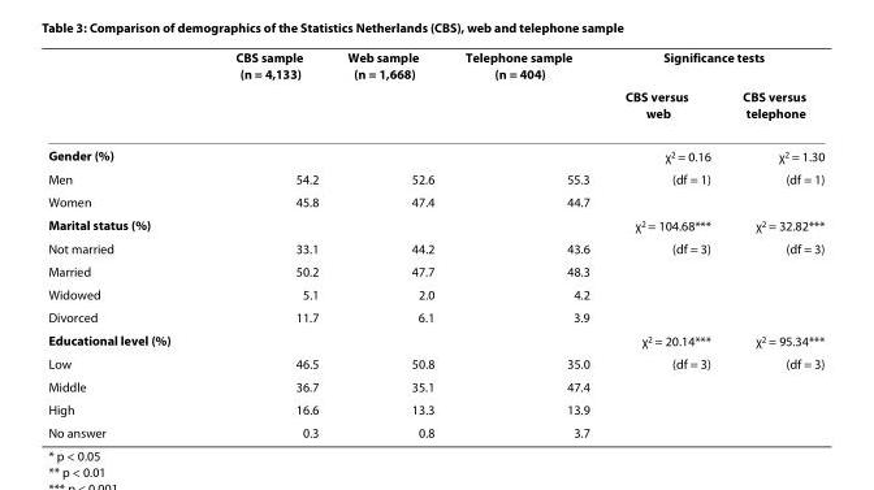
<table><thead><tr><td rowspan="2"></td><td rowspan="2">CBS sample (n = 4,133)</td><td rowspan="2">Web sample (n = 1,668)</td><td rowspan="2">Telephone sample (n = 404)</td><td colspan="2">Significance tests</td></tr><tr><td>CBS versus web</td><td>CBS versus telephone</td></tr></thead><tbody><tr><td>Gender (%)</td><td></td><td></td><td></td><td>χ<sup>2</sup> = 0.16</td><td>χ<sup>2</sup> = 1.30</td></tr><tr><td>Men</td><td>54.2</td><td>52.6</td><td>55.3</td><td>(df = 1)</td><td>(df = 1)</td></tr><tr><td>Women</td><td>45.8</td><td>47.4</td><td>44.7</td><td></td><td></td></tr><tr><td>Marital status (%)</td><td></td><td></td><td></td><td>χ<sup>2</sup> = 104.68***</td><td>χ<sup>2</sup> = 32.82***</td></tr><tr><td>Not married</td><td>33.1</td><td>44.2</td><td>43.6</td><td>(df = 3)</td><td>(df = 3)</td></tr><tr><td>Married</td><td>50.2</td><td>47.7</td><td>48.3</td><td></td><td></td></tr><tr><td>Widowed</td><td>5.1</td><td>2.0</td><td>4.2</td><td></td><td></td></tr><tr><td>Divorced</td><td>11.7</td><td>6.1</td><td>3.9</td><td></td><td></td></tr><tr><td>Educational level (%)</td><td></td><td></td><td></td><td>χ<sup>2</sup> = 20.14***</td><td>χ<sup>2</sup> = 95.34***</td></tr><tr><td>Low</td><td>46.5</td><td>50.8</td><td>35.0</td><td>(df = 3)</td><td>(df = 3)</td></tr><tr><td>Middle</td><td>36.7</td><td>35.1</td><td>47.4</td><td></td><td></td></tr><tr><td>High</td><td>16.6</td><td>13.3</td><td>13.9</td><td></td><td></td></tr><tr><td>No answer</td><td>0.3</td><td>0.8</td><td>3.7</td><td></td><td></td></tr></tbody></table>